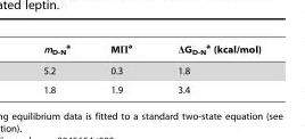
<table><thead><tr><td>m<sub>D-N</sub> a</td><td>MΠ<sup>a</sup></td><td>ΔG<sub>D-N</sub> a (kcal/mol)</td></tr></thead><tbody><tr><td>5.2</td><td>0.3</td><td>1.8</td></tr><tr><td>1.8</td><td>1.9</td><td>3.4</td></tr></tbody></table>